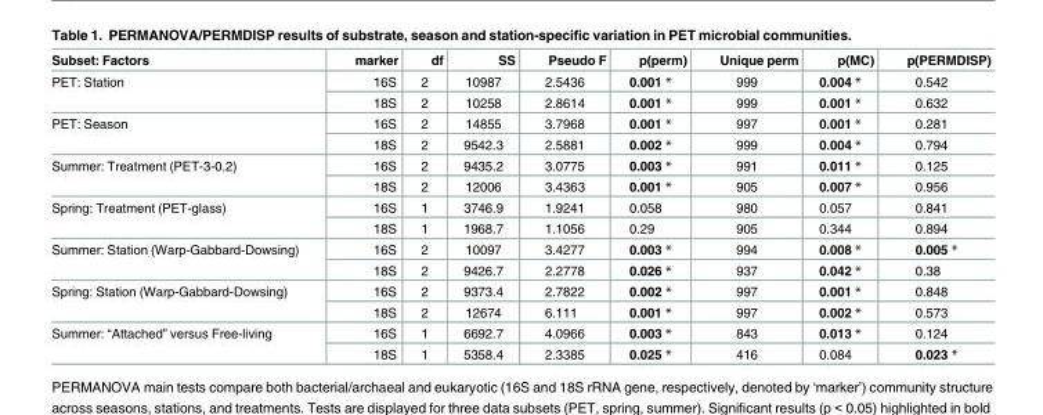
<table><thead><tr><td>Subset: Factors</td><td>marker</td><td>df</td><td>SS</td><td>Pseudo F</td><td>p(perm)</td><td>Unique perm</td><td>p(MC)</td><td>p(PERMDISP)</td></tr></thead><tbody><tr><td rowspan="2">PET: Station</td><td>16S</td><td>2</td><td>10987</td><td>2.5436</td><td>0.001 *</td><td>999</td><td>0.004 *</td><td>0.542</td></tr><tr><td>18S</td><td>2</td><td>10258</td><td>2.8614</td><td>0.001 *</td><td>999</td><td>0.001 *</td><td>0.632</td></tr><tr><td rowspan="2">PET: Season</td><td>16S</td><td>2</td><td>14855</td><td>3.7968</td><td>0.001 *</td><td>997</td><td>0.001 *</td><td>0.281</td></tr><tr><td>18S</td><td>2</td><td>9542.3</td><td>2.5881</td><td>0.002 *</td><td>999</td><td>0.004 *</td><td>0.794</td></tr><tr><td rowspan="2">Summer: Treatment (PET-3-0.2)</td><td>16S</td><td>2</td><td>9435.2</td><td>3.0775</td><td>0.003 *</td><td>991</td><td>0.011 *</td><td>0.125</td></tr><tr><td>18S</td><td>2</td><td>12006</td><td>3.4363</td><td>0.001 *</td><td>905</td><td>0.007 *</td><td>0.956</td></tr><tr><td rowspan="2">Spring: Treatment (PET-glass)</td><td>16S</td><td>1</td><td>3746.9</td><td>1.9241</td><td>0.058</td><td>980</td><td>0.057</td><td>0.841</td></tr><tr><td>18S</td><td>1</td><td>1968.7</td><td>1.1056</td><td>0.29</td><td>905</td><td>0.344</td><td>0.894</td></tr><tr><td rowspan="2">Summer: Station (Warp-Gabbard-Dowsing)</td><td>16S</td><td>2</td><td>10097</td><td>3.4277</td><td>0.003 *</td><td>994</td><td>0.008 *</td><td>0.005 *</td></tr><tr><td>18S</td><td>2</td><td>9426.7</td><td>2.2778</td><td>0.026 *</td><td>937</td><td>0.042 *</td><td>0.38</td></tr><tr><td rowspan="2">Spring: Station (Warp-Gabbard-Dowsing)</td><td>16S</td><td>2</td><td>9373.4</td><td>2.7822</td><td>0.002 *</td><td>997</td><td>0.001 *</td><td>0.848</td></tr><tr><td>18S</td><td>2</td><td>12674</td><td>6.111</td><td>0.001 *</td><td>997</td><td>0.002 *</td><td>0.573</td></tr><tr><td rowspan="2">Summer: “Attached” versus Free-living</td><td>16S</td><td>1</td><td>6692.7</td><td>4.0966</td><td>0.003 *</td><td>843</td><td>0.013 *</td><td>0.124</td></tr><tr><td>18S</td><td>1</td><td>5358.4</td><td>2.3385</td><td>0.025 *</td><td>416</td><td>0.084</td><td>0.023 *</td></tr></tbody></table>